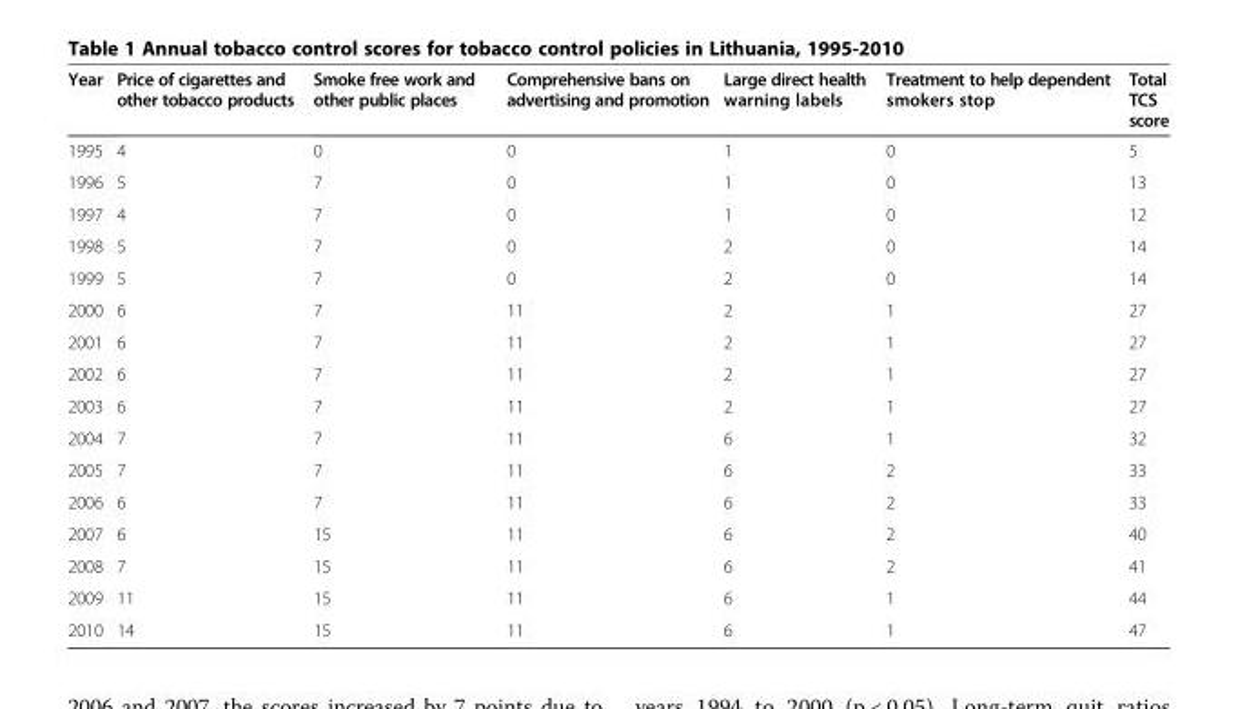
<table><thead><tr><td>Year</td><td>Price of cigarettes and other tobacco products</td><td>Smoke free work and other public places</td><td>Comprehensive bans on advertising and promotion</td><td>Large direct health warning labels</td><td>Treatment to help dependent smokers stop</td><td>Total TCS score</td></tr></thead><tbody><tr><td>1995</td><td>4</td><td>0</td><td>0</td><td>1</td><td>0</td><td>5</td></tr><tr><td>1996</td><td>5</td><td>7</td><td>0</td><td>1</td><td>0</td><td>13</td></tr><tr><td>1997</td><td>4</td><td>7</td><td>0</td><td>1</td><td>0</td><td>12</td></tr><tr><td>1998</td><td>5</td><td>7</td><td>0</td><td>2</td><td>0</td><td>14</td></tr><tr><td>1999</td><td>5</td><td>7</td><td>0</td><td>2</td><td>0</td><td>14</td></tr><tr><td>2000</td><td>6</td><td>7</td><td>11</td><td>2</td><td>1</td><td>27</td></tr><tr><td>2001</td><td>6</td><td>7</td><td>11</td><td>2</td><td>1</td><td>27</td></tr><tr><td>2002</td><td>6</td><td>7</td><td>11</td><td>2</td><td>1</td><td>27</td></tr><tr><td>2003</td><td>6</td><td>7</td><td>11</td><td>2</td><td>1</td><td>27</td></tr><tr><td>2004</td><td>7</td><td>7</td><td>11</td><td>6</td><td>1</td><td>32</td></tr><tr><td>2005</td><td>7</td><td>7</td><td>11</td><td>6</td><td>2</td><td>33</td></tr><tr><td>2006</td><td>6</td><td>7</td><td>11</td><td>6</td><td>2</td><td>33</td></tr><tr><td>2007</td><td>6</td><td>15</td><td>11</td><td>6</td><td>2</td><td>40</td></tr><tr><td>2008</td><td>7</td><td>15</td><td>11</td><td>6</td><td>2</td><td>41</td></tr><tr><td>2009</td><td>11</td><td>15</td><td>11</td><td>6</td><td>1</td><td>44</td></tr><tr><td>2010</td><td>14</td><td>15</td><td>11</td><td>6</td><td>1</td><td>47</td></tr></tbody></table>